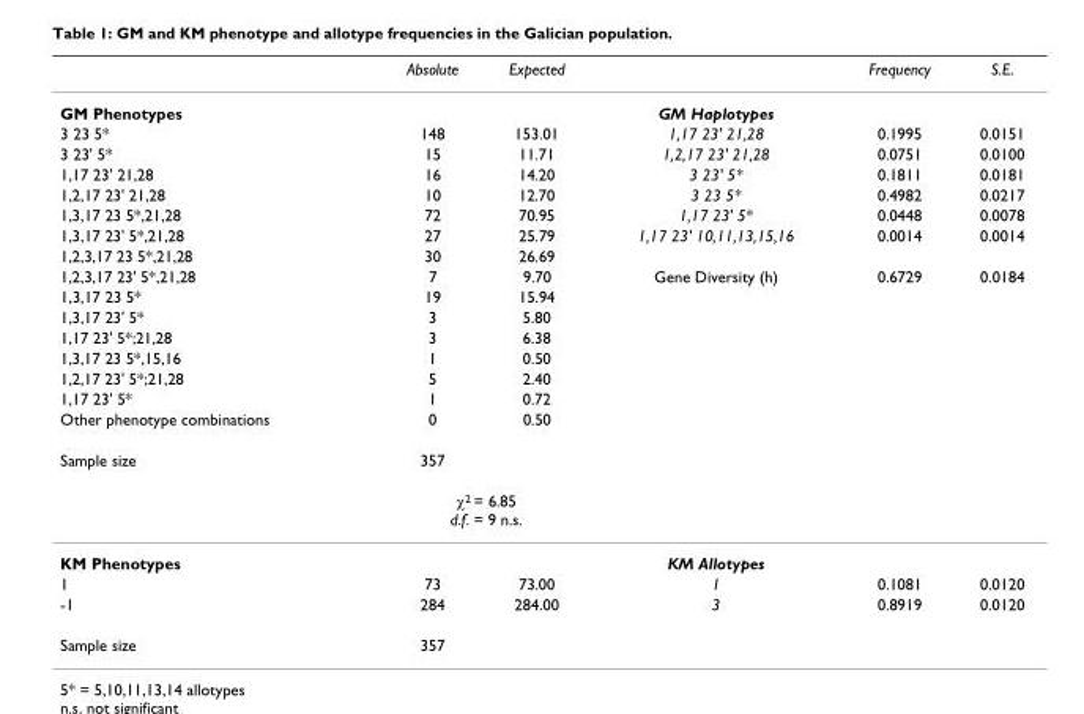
<table><thead><tr><td></td><td>Absolute</td><td>Expected</td><td></td><td>Frequency</td><td>S.E.</td></tr></thead><tbody><tr><td>GM Phenotypes</td><td></td><td></td><td>GM Haplotypes</td><td></td><td></td></tr><tr><td>3 23 5*</td><td>148</td><td>153.01</td><td>1,17 23&#x27; 21,28</td><td>0.1995</td><td>0.0151</td></tr><tr><td>3 23&#x27; 5*</td><td>15</td><td>11.71</td><td>1,2,17 23&#x27; 21,28</td><td>0.0751</td><td>0.0100</td></tr><tr><td>1,17 23&#x27; 21,28</td><td>16</td><td>14.20</td><td>3 23&#x27; 5*</td><td>0.1811</td><td>0.0181</td></tr><tr><td>1,2,17 23&#x27; 21,28</td><td>10</td><td>12.70</td><td>3 23 5*</td><td>0.4982</td><td>0.0217</td></tr><tr><td>1,3,17 23 5*,21,28</td><td>72</td><td>70.95</td><td>1,17 23&#x27; 5*</td><td>0.0448</td><td>0.0078</td></tr><tr><td>1,3,17 23&#x27; 5*,21,28</td><td>27</td><td>25.79</td><td>1,17 23&#x27; 10,11,13,15,16</td><td>0.0014</td><td>0.0014</td></tr><tr><td>1,2,3,17 23 5*,21,28</td><td>30</td><td>26.69</td><td></td><td></td><td></td></tr><tr><td>1,2,3,17 23&#x27; 5*,21,28</td><td>7</td><td>9.70</td><td>Gene Diversity (h)</td><td>0.6729</td><td>0.0184</td></tr><tr><td>1,3,17 23 5*</td><td>19</td><td>15.94</td><td></td><td></td><td></td></tr><tr><td>1,3,17 23&#x27; 5*</td><td>3</td><td>5.80</td><td></td><td></td><td></td></tr><tr><td>1,17 23&#x27; 5*;21,28</td><td>3</td><td>6.38</td><td></td><td></td><td></td></tr><tr><td>1,3,17 23 5*,15,16</td><td>1</td><td>0.50</td><td></td><td></td><td></td></tr><tr><td>1,2,17 23&#x27; 5*;21,28</td><td>5</td><td>2.40</td><td></td><td></td><td></td></tr><tr><td>1,17 23&#x27; 5*</td><td>1</td><td>0.72</td><td></td><td></td><td></td></tr><tr><td>Other phenotype combinations</td><td>0</td><td>0.50</td><td></td><td></td><td></td></tr><tr><td rowspan="2">Sample size</td><td>357</td><td></td><td></td><td></td><td></td></tr><tr><td colspan="2">χ<sup>2</sup> = 6.85 d.f. = 9 n.s.</td><td></td><td></td><td></td></tr><tr><td>KM Phenotypes</td><td></td><td></td><td>KM Allotypes</td><td></td><td></td></tr><tr><td>1</td><td>73</td><td>73.00</td><td>1</td><td>0.1081</td><td>0.0120</td></tr><tr><td>-1</td><td>284</td><td>284.00</td><td>3</td><td>0.8919</td><td>0.0120</td></tr><tr><td>Sample size</td><td>357</td><td></td><td></td><td></td><td></td></tr></tbody></table>